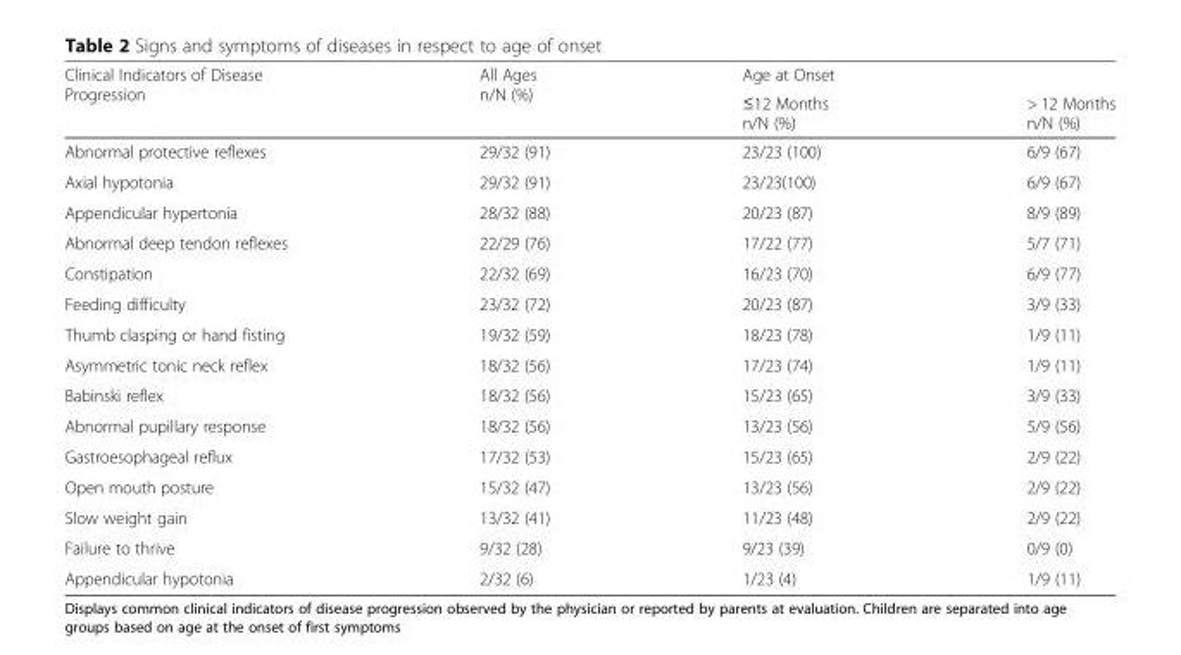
<table><thead><tr><td rowspan="2">Clinical Indicators of Disease Progression</td><td rowspan="2">All Ages n/N (%)</td><td rowspan="2">Age at Onset ≤12 Months n/N (%)</td><td rowspan="2">&gt; 12 Months n/N (%)</td></tr><tr></tr></thead><tbody><tr><td>Abnormal protective reflexes</td><td>29/32 (91)</td><td>23/23 (100)</td><td>6/9 (67)</td></tr><tr><td>Axial hypotonia</td><td>29/32 (91)</td><td>23/23(100)</td><td>6/9 (67)</td></tr><tr><td>Appendicular hypertonia</td><td>28/32 (88)</td><td>20/23 (87)</td><td>8/9 (89)</td></tr><tr><td>Abnormal deep tendon reflexes</td><td>22/29 (76)</td><td>17/22 (77)</td><td>5/7 (71)</td></tr><tr><td>Constipation</td><td>22/32 (69)</td><td>16/23 (70)</td><td>6/9 (77)</td></tr><tr><td>Feeding difficulty</td><td>23/32 (72)</td><td>20/23 (87)</td><td>3/9 (33)</td></tr><tr><td>Thumb clasping or hand fisting</td><td>19/32 (59)</td><td>18/23 (78)</td><td>1/9 (11)</td></tr><tr><td>Asymmetric tonic neck reflex</td><td>18/32 (56)</td><td>17/23 (74)</td><td>1/9 (11)</td></tr><tr><td>Babinski reflex</td><td>18/32 (56)</td><td>15/23 (65)</td><td>3/9 (33)</td></tr><tr><td>Abnormal pupillary response</td><td>18/32 (56)</td><td>13/23 (56)</td><td>5/9 (56)</td></tr><tr><td>Gastroesophageal reflux</td><td>17/32 (53)</td><td>15/23 (65)</td><td>2/9 (22)</td></tr><tr><td>Open mouth posture</td><td>15/32 (47)</td><td>13/23 (56)</td><td>2/9 (22)</td></tr><tr><td>Slow weight gain</td><td>13/32 (41)</td><td>11/23 (48)</td><td>2/9 (22)</td></tr><tr><td>Failure to thrive</td><td>9/32 (28)</td><td>9/23 (39)</td><td>0/9 (0)</td></tr><tr><td>Appendicular hypotonia</td><td>2/32 (6)</td><td>1/23 (4)</td><td>1/9 (11)</td></tr></tbody></table>